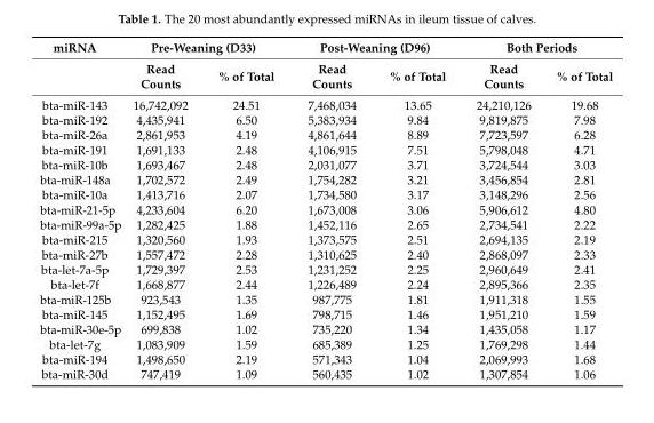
<table><thead><tr><td rowspan="2">miRNA</td><td colspan="2">Pre-Weaning (D33)</td><td colspan="2">Post-Weaning (D96)</td><td colspan="2">Both Periods</td></tr><tr><td>Read Counts</td><td>% of Total</td><td>Read Counts</td><td>% of Total</td><td>Read Counts</td><td>% of Total</td></tr></thead><tbody><tr><td>bta-miR-143</td><td>16,742,092</td><td>24.51</td><td>7,468,034</td><td>13.65</td><td>24,210,126</td><td>19.68</td></tr><tr><td>bta-miR-192</td><td>4,435,941</td><td>6.50</td><td>5,383,934</td><td>9.84</td><td>9,819,875</td><td>7.98</td></tr><tr><td>bta-miR-26a</td><td>2,861,953</td><td>4.19</td><td>4,861,644</td><td>8.89</td><td>7,723,597</td><td>6.28</td></tr><tr><td>bta-miR-191</td><td>1,691,133</td><td>2.48</td><td>4,106,915</td><td>7.51</td><td>5,798,048</td><td>4.71</td></tr><tr><td>bta-miR-10b</td><td>1,693,467</td><td>2.48</td><td>2,031,077</td><td>3.71</td><td>3,724,544</td><td>3.03</td></tr><tr><td>bta-miR-148a</td><td>1,702,572</td><td>2.49</td><td>1,754,282</td><td>3.21</td><td>3,456,854</td><td>2.81</td></tr><tr><td>bta-miR-10a</td><td>1,413,716</td><td>2.07</td><td>1,734,580</td><td>3.17</td><td>3,148,296</td><td>2.56</td></tr><tr><td>bta-miR-21-5p</td><td>4,233,604</td><td>6.20</td><td>1,673,008</td><td>3.06</td><td>5,906,612</td><td>4.80</td></tr><tr><td>bta-miR-99a-5p</td><td>1,282,425</td><td>1.88</td><td>1,452,116</td><td>2.65</td><td>2,734,541</td><td>2.22</td></tr><tr><td>bta-miR-215</td><td>1,320,560</td><td>1.93</td><td>1,373,575</td><td>2.51</td><td>2,694,135</td><td>2.19</td></tr><tr><td>bta-miR-27b</td><td>1,557,472</td><td>2.28</td><td>1,310,625</td><td>2.40</td><td>2,868,097</td><td>2.33</td></tr><tr><td>bta-let-7a-5p</td><td>1,729,397</td><td>2.53</td><td>1,231,252</td><td>2.25</td><td>2,960,649</td><td>2.41</td></tr><tr><td>bta-let-7f</td><td>1,668,877</td><td>2.44</td><td>1,226,489</td><td>2.24</td><td>2,895,366</td><td>2.35</td></tr><tr><td>bta-miR-125b</td><td>923,543</td><td>1.35</td><td>987,775</td><td>1.81</td><td>1,911,318</td><td>1.55</td></tr><tr><td>bta-miR-145</td><td>1,152,495</td><td>1.69</td><td>798,715</td><td>1.46</td><td>1,951,210</td><td>1.59</td></tr><tr><td>bta-miR-30e-5p</td><td>699,838</td><td>1.02</td><td>735,220</td><td>1.34</td><td>1,435,058</td><td>1.17</td></tr><tr><td>bta-let-7g</td><td>1,083,909</td><td>1.59</td><td>685,389</td><td>1.25</td><td>1,769,298</td><td>1.44</td></tr><tr><td>bta-miR-194</td><td>1,498,650</td><td>2.19</td><td>571,343</td><td>1.04</td><td>2,069,993</td><td>1.68</td></tr><tr><td>bta-miR-30d</td><td>747,419</td><td>1.09</td><td>560,435</td><td>1.02</td><td>1,307,854</td><td>1.06</td></tr></tbody></table>